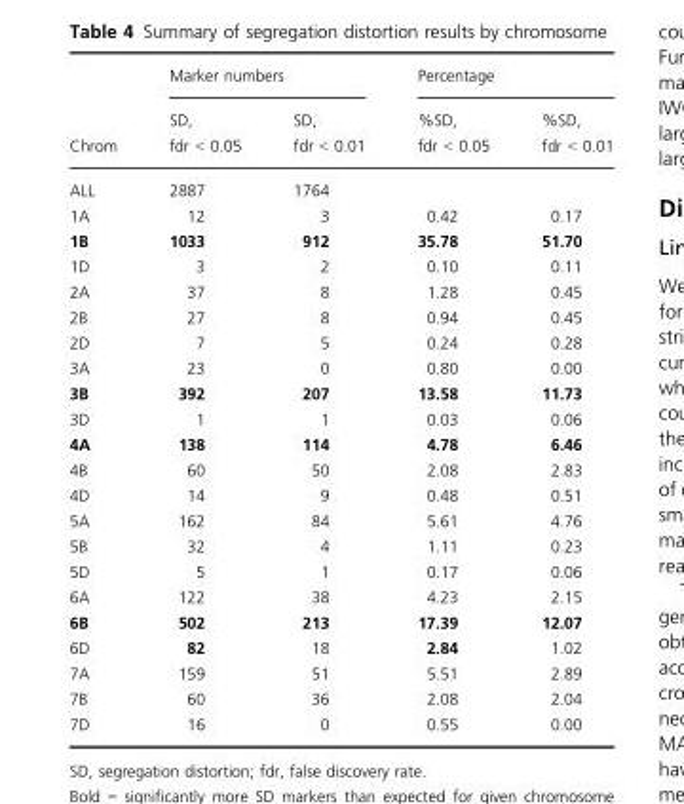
<table><thead><tr><td rowspan="2">Chrom</td><td colspan="2">Marker numbers</td><td colspan="2">Percentage</td></tr><tr><td>SD, fdr &lt; 0.05</td><td>SD, fdr &lt; 0.01</td><td>%SD, fdr &lt; 0.05</td><td>%SD, fdr &lt; 0.01</td></tr></thead><tbody><tr><td>ALL</td><td>2887</td><td>1764</td><td></td><td></td></tr><tr><td>1A</td><td>12</td><td>3</td><td>0.42</td><td>0.17</td></tr><tr><td>1B</td><td>1033</td><td>912</td><td>35.78</td><td>51.70</td></tr><tr><td>1D</td><td>3</td><td>2</td><td>0.10</td><td>0.11</td></tr><tr><td>2A</td><td>37</td><td>8</td><td>1.28</td><td>0.45</td></tr><tr><td>2B</td><td>27</td><td>8</td><td>0.94</td><td>0.45</td></tr><tr><td>2D</td><td>7</td><td>5</td><td>0.24</td><td>0.28</td></tr><tr><td>3A</td><td>23</td><td>0</td><td>0.80</td><td>0.00</td></tr><tr><td>3B</td><td>392</td><td>207</td><td>13.58</td><td>11.73</td></tr><tr><td>3D</td><td>1</td><td>1</td><td>0.03</td><td>0.06</td></tr><tr><td>4A</td><td>138</td><td>114</td><td>4.78</td><td>6.46</td></tr><tr><td>4B</td><td>60</td><td>50</td><td>2.08</td><td>2.83</td></tr><tr><td>4D</td><td>14</td><td>9</td><td>0.48</td><td>0.51</td></tr><tr><td>5A</td><td>162</td><td>84</td><td>5.61</td><td>4.76</td></tr><tr><td>5B</td><td>32</td><td>4</td><td>1.11</td><td>0.23</td></tr><tr><td>5D</td><td>5</td><td>1</td><td>0.17</td><td>0.06</td></tr><tr><td>6A</td><td>122</td><td>38</td><td>4.23</td><td>2.15</td></tr><tr><td>6B</td><td>502</td><td>213</td><td>17.39</td><td>12.07</td></tr><tr><td>6D</td><td>82</td><td>18</td><td>2.84</td><td>1.02</td></tr><tr><td>7A</td><td>159</td><td>51</td><td>5.51</td><td>2.89</td></tr><tr><td>7B</td><td>60</td><td>36</td><td>2.08</td><td>2.04</td></tr><tr><td>7D</td><td>16</td><td>0</td><td>0.55</td><td>0.00</td></tr></tbody></table>